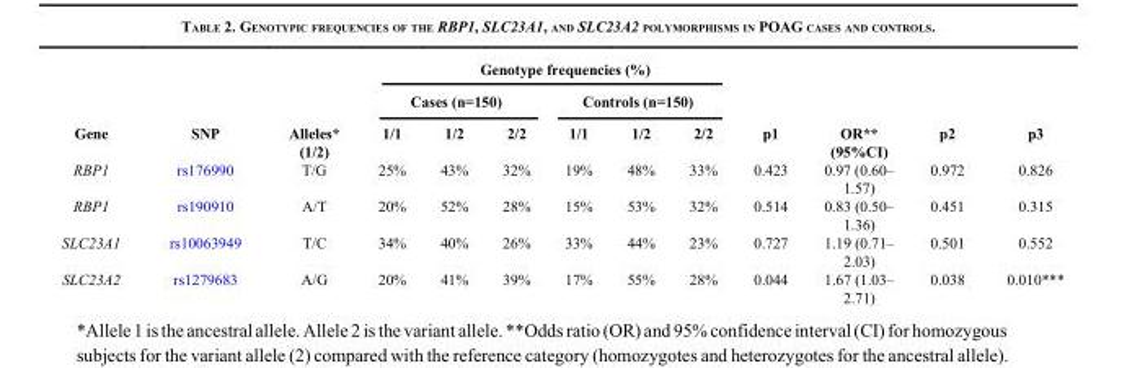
<table><thead><tr><td rowspan="3">Gene</td><td rowspan="3">SNP</td><td rowspan="3">Alleles* (1/2)</td><td colspan="6">Genotype frequencies (%)</td><td rowspan="3">p1</td><td rowspan="3">OR** (95%CI)</td><td rowspan="3">p2</td><td rowspan="3">p3</td></tr><tr><td colspan="3">Cases (n=150)</td><td colspan="3">Controls (n=150)</td></tr><tr><td>1/1</td><td>1/2</td><td>2/2</td><td>1/1</td><td>1/2</td><td>2/2</td></tr></thead><tbody><tr><td>RBP1</td><td>rs176990</td><td>T/G</td><td>25%</td><td>43%</td><td>32%</td><td>19%</td><td>48%</td><td>33%</td><td>0.423</td><td>0.97 (0.60– 1.57)</td><td>0.972</td><td>0.826</td></tr><tr><td>RBP1</td><td>rs190910</td><td>A/T</td><td>20%</td><td>52%</td><td>28%</td><td>15%</td><td>53%</td><td>32%</td><td>0.514</td><td>0.83 (0.50– 1.36)</td><td>0.451</td><td>0.315</td></tr><tr><td>SLC23A1</td><td>rs10063949</td><td>T/C</td><td>34%</td><td>40%</td><td>26%</td><td>33%</td><td>44%</td><td>23%</td><td>0.727</td><td>1.19 (0.71– 2.03)</td><td>0.501</td><td>0.552</td></tr><tr><td>SLC23A2</td><td>rs1279683</td><td>A/G</td><td>20%</td><td>41%</td><td>39%</td><td>17%</td><td>55%</td><td>28%</td><td>0.044</td><td>1.67 (1.03– 2.71)</td><td>0.038</td><td>0.010***</td></tr></tbody></table>